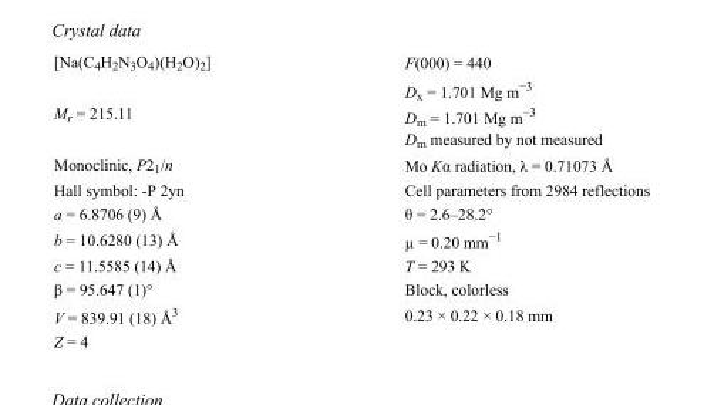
<table><tbody><tr><td>[Na(C<sub>4</sub>H<sub>2</sub>N<sub>3</sub>O<sub>4</sub>)(H<sub>2</sub>O)<sub>2</sub>]</td><td>F(000) = 440</td></tr><tr><td>M<sub>r</sub> = 215.11</td><td>D<sub>x</sub> = 1.701 Mg m<sup>−3</sup> D<sub>m</sub> = 1.701 Mg m<sup>−3</sup> D<sub>m</sub> measured by not measured</td></tr><tr><td>Monoclinic, P2<sub>1</sub>/n</td><td>Mo Kα radiation, λ = 0.71073 Å</td></tr><tr><td>Hall symbol: -P 2yn</td><td>Cell parameters from 2984 reflections</td></tr><tr><td>a = 6.8706 (9) Å</td><td>θ = 2.6–28.2°</td></tr><tr><td>b = 10.6280 (13) Å</td><td>µ = 0.20 mm<sup>−1</sup></td></tr><tr><td>c = 11.5585 (14) Å</td><td>T = 293 K</td></tr><tr><td>β = 95.647 (1)°</td><td>Block, colorless</td></tr><tr><td>V = 839.91 (18) Å<sup>3</sup></td><td>0.23 × 0.22 × 0.18 mm</td></tr><tr><td>Z = 4</td><td></td></tr></tbody></table>